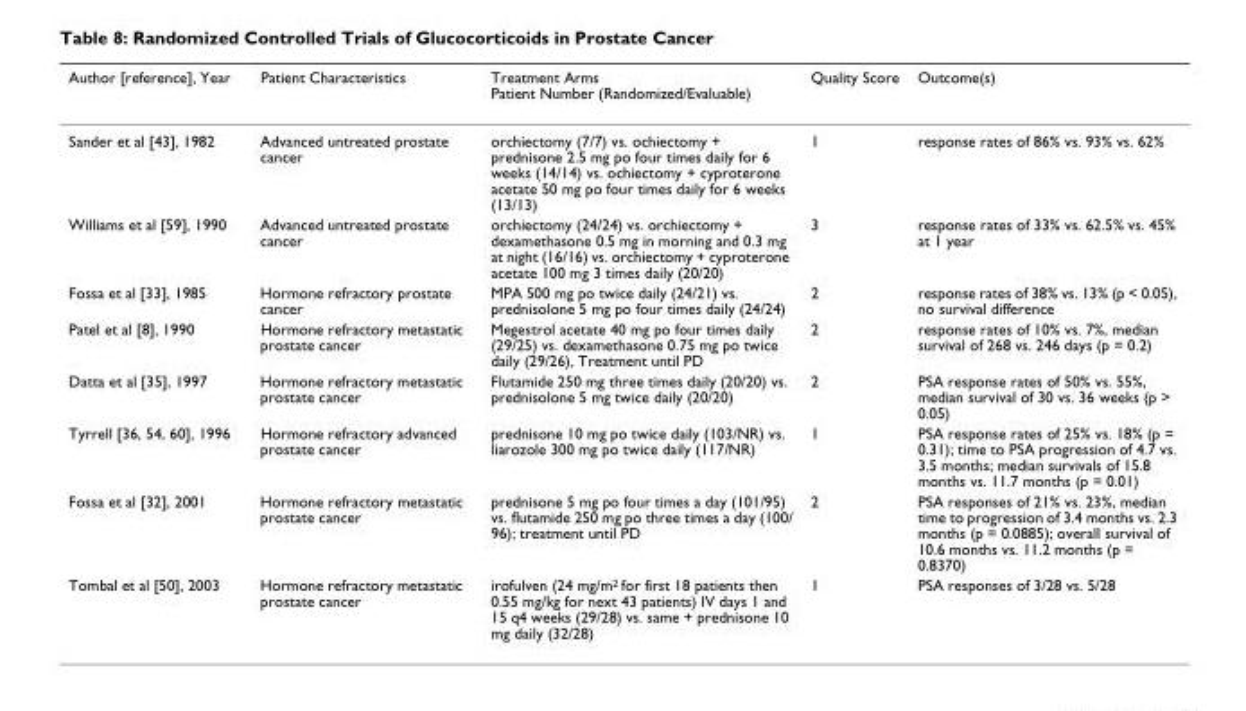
<table><thead><tr><td>Author [reference], Year</td><td>Patient Characteristics</td><td>Treatment Arms Patient Number (Randomized/Evaluable)</td><td>Quality Score</td><td>Outcome(s)</td></tr></thead><tbody><tr><td>Sander et al [43], 1982</td><td>Advanced untreated prostate cancer</td><td>orchiectomy (7/7) vs. ochiectomy + prednisone 2.5 mg po four times daily for 6 weeks (14/14) vs. ochiectomy + cyproterone acetate 50 mg po four times daily for 6 weeks (13/13)</td><td>1</td><td>response rates of 86% vs. 93% vs. 62%</td></tr><tr><td>Williams et al [59], 1990</td><td>Advanced untreated prostate cancer</td><td>orchiectomy (24/24) vs. orchiectomy + dexamethasone 0.5 mg in morning and 0.3 mg at night (16/16) vs. orchiectomy + cyproterone acetate 100 mg 3 times daily (20/20)</td><td>3</td><td>response rates of 33% vs. 62.5% vs. 45% at 1 year</td></tr><tr><td>Fossa et al [33], 1985</td><td>Hormone refractory prostate cancer</td><td>MPA 500 mg po twice daily (24/21) vs. prednisolone 5 mg po four times daily (24/24)</td><td>2</td><td>response rates of 38% vs. 13% (p &lt; 0.05), no survival difference</td></tr><tr><td>Patel et al [8], 1990</td><td>Hormone refractory metastatic prostate cancer</td><td>Megestrol acetate 40 mg po four times daily (29/25) vs. dexamethasone 0.75 mg po twice daily (29/26), Treatment until PD</td><td>2</td><td>response rates of 10% vs. 7%, median survival of 268 vs. 246 days (p = 0.2)</td></tr><tr><td>Datta et al [35], 1997</td><td>Hormone refractory metastatic prostate cancer</td><td>Flutamide 250 mg three times daily (20/20) vs. prednisolone 5 mg twice daily (20/20)</td><td>2</td><td>PSA response rates of 50% vs. 55%, median survival of 30 vs. 36 weeks (p &gt; 0.05)</td></tr><tr><td>Tyrrell [36, 54, 60], 1996</td><td>Hormone refractory advanced prostate cancer</td><td>prednisone 10 mg po twice daily (103/NR) vs. liarozole 300 mg po twice daily (117/NR)</td><td>1</td><td>PSA response rates of 25% vs. 18% (p = 0.31); time to PSA progression of 4.7 vs. 3.5 months; median survivals of 15.8 months vs. 11.7 months (p = 0.01)</td></tr><tr><td>Fossa et al [32], 2001</td><td>Hormone refractory metastatic prostate cancer</td><td>prednisone 5 mg po four times a day (101/95) vs. flutamide 250 mg po three times a day (100/ 96); treatment until PD</td><td>2</td><td>PSA responses of 21% vs. 23%, median time to progression of 3.4 months vs. 2.3 months (p = 0.0885); overall survival of 10.6 months vs. 11.2 months (p = 0.8370)</td></tr><tr><td>Tombal et al [50], 2003</td><td>Hormone refractory metastatic prostate cancer</td><td>irofulven (24 mg/m<sup>2</sup> for first 18 patients then 0.55 mg/kg for next 43 patients) IV days 1 and 15 q4 weeks (29/28) vs. same + prednisone 10 mg daily (32/28)</td><td>1</td><td>PSA responses of 3/28 vs. 5/28</td></tr></tbody></table>